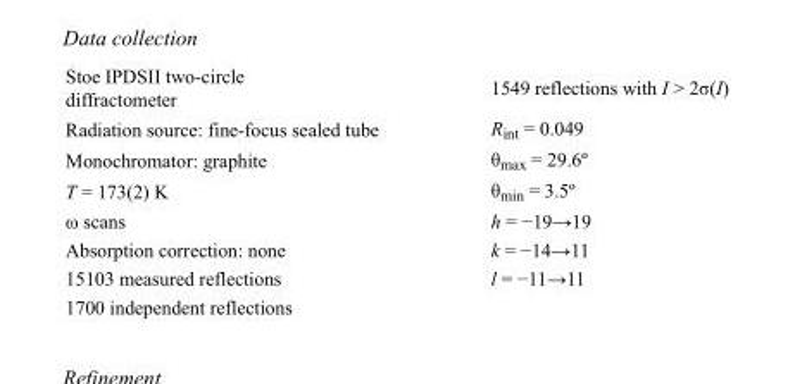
<table><tbody><tr><td>Stoe IPDSII two-circle diffractometer</td><td>1549 reflections with I &gt; 2σ(I)</td></tr><tr><td>Radiation source: fine-focus sealed tube</td><td>R<sub>int</sub> = 0.049</td></tr><tr><td>Monochromator: graphite</td><td>θ<sub>max</sub> = 29.6º</td></tr><tr><td>T = 173(2) K</td><td>θ<sub>min</sub> = 3.5º</td></tr><tr><td>ω scans</td><td>h = −19→19</td></tr><tr><td>Absorption correction: none</td><td>k = −14→11</td></tr><tr><td>15103 measured reflections</td><td>l = −11→11</td></tr><tr><td>1700 independent reflections</td><td></td></tr></tbody></table>